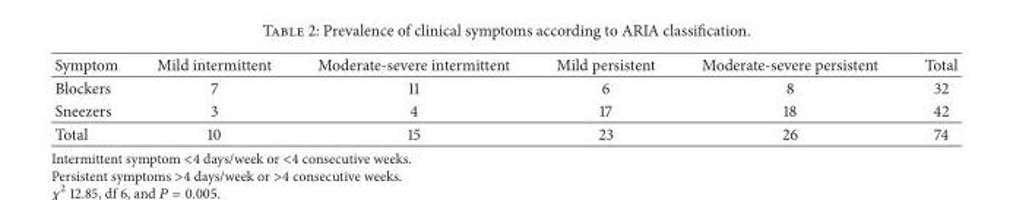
<table><thead><tr><td>Symptom</td><td>Mild intermittent</td><td>Moderate-severe intermittent</td><td>Mild persistent</td><td>Moderate-severe persistent</td><td>Total</td></tr></thead><tbody><tr><td>Blockers</td><td>7</td><td>11</td><td>6</td><td>8</td><td>32</td></tr><tr><td>Sneezers</td><td>3</td><td>4</td><td>17</td><td>18</td><td>42</td></tr><tr><td>Total</td><td>10</td><td>15</td><td>23</td><td>26</td><td>74</td></tr></tbody></table>